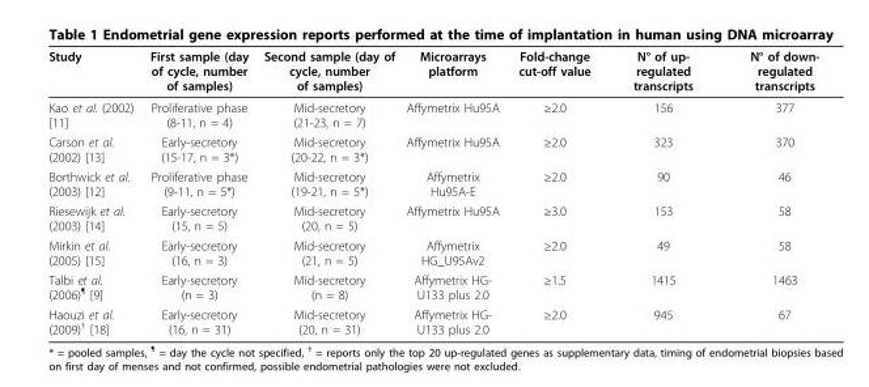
<table><thead><tr><td>Study</td><td>First sample (day of cycle, number of samples)</td><td>Second sample (day of cycle, number of samples)</td><td>Microarrays platform</td><td>Fold-change cut-off value</td><td>N° of up- regulated transcripts</td><td>N° of down- regulated transcripts</td></tr></thead><tbody><tr><td>Kao et al. (2002) [11]</td><td>Proliferative phase (8-11, n = 4)</td><td>Mid-secretory (21-23, n = 7)</td><td>Affymetrix Hu95A</td><td>≥2.0</td><td>156</td><td>377</td></tr><tr><td>Carson et al. (2002) [13]</td><td>Early-secretory (15-17, n = 3*)</td><td>Mid-secretory (20-22, n = 3*)</td><td>Affymetrix Hu95A</td><td>≥2.0</td><td>323</td><td>370</td></tr><tr><td>Borthwick et al. (2003) [12]</td><td>Proliferative phase (9-11, n = 5*)</td><td>Mid-secretory (19-21, n = 5*)</td><td>Affymetrix Hu95A-E</td><td>≥2.0</td><td>90</td><td>46</td></tr><tr><td>Riesewijk et al. (2003) [14]</td><td>Early-secretory (15, n = 5)</td><td>Mid-secretory (20, n = 5)</td><td>Affymetrix Hu95A</td><td>≥3.0</td><td>153</td><td>58</td></tr><tr><td>Mirkin et al. (2005) [15]</td><td>Early-secretory (16, n = 3)</td><td>Mid-secretory (21, n = 5)</td><td>Affymetrix HG_U95Av2</td><td>≥2.0</td><td>49</td><td>58</td></tr><tr><td>Talbi et al. (2006)<sup>¶</sup> [9]</td><td>Early-secretory (n = 3)</td><td>Mid-secretory (n = 8)</td><td>Affymetrix HG- U133 plus 2.0</td><td>≥1.5</td><td>1415</td><td>1463</td></tr><tr><td>Haouzi et al. (2009)<sup>†</sup> [18]</td><td>Early-secretory (16, n = 31)</td><td>Mid-secretory (20, n = 31)</td><td>Affymetrix HG- U133 plus 2.0</td><td>≥2.0</td><td>945</td><td>67</td></tr></tbody></table>